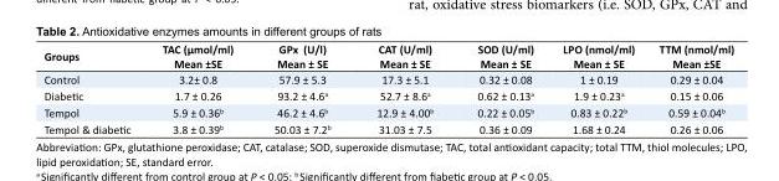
<table><tbody><tr><td>Groups</td><td>TAC (µmol/ml) Mean ±SE</td><td>GPx (U/l) Mean ± SE</td><td>CAT (U/ml) Mean ± SE</td><td>SOD (U/ml) Mean ± SE</td><td>LPO (nmol/ml) Mean ± SE</td><td>TTM (nmol/ml) Mean ±SE</td></tr><tr><td>Control</td><td>3.2± 0.8</td><td>57.9 ± 5.3</td><td>17.3 ± 5.1</td><td>0.32 ± 0.08</td><td>1 ± 0.19</td><td>0.29 ± 0.04</td></tr><tr><td>Diabetic</td><td>1.7 ± 0.26</td><td>93.2 ± 4.6<sup>a</sup></td><td>52.7 ± 8.6<sup>a</sup></td><td>0.62 ± 0.13<sup>a</sup></td><td>1.9 ± 0.23<sup>a</sup></td><td>0.15 ± 0.06</td></tr><tr><td>Tempol</td><td>5.9 ± 0.36<sup>b</sup></td><td>46.2 ± 4.6<sup>b</sup></td><td>12.9 ± 4.00<sup>b</sup></td><td>0.22 ± 0.05<sup>b</sup></td><td>0.83 ± 0.22<sup>b</sup></td><td>0.59 ± 0.04<sup>b</sup></td></tr><tr><td>Tempol &amp; diabetic</td><td>3.8 ± 0.39<sup>b</sup></td><td>50.03 ± 7.2<sup>b</sup></td><td>31.03 ± 7.5</td><td>0.36 ± 0.09</td><td>1.68 ± 0.24</td><td>0.26 ± 0.06</td></tr></tbody></table>